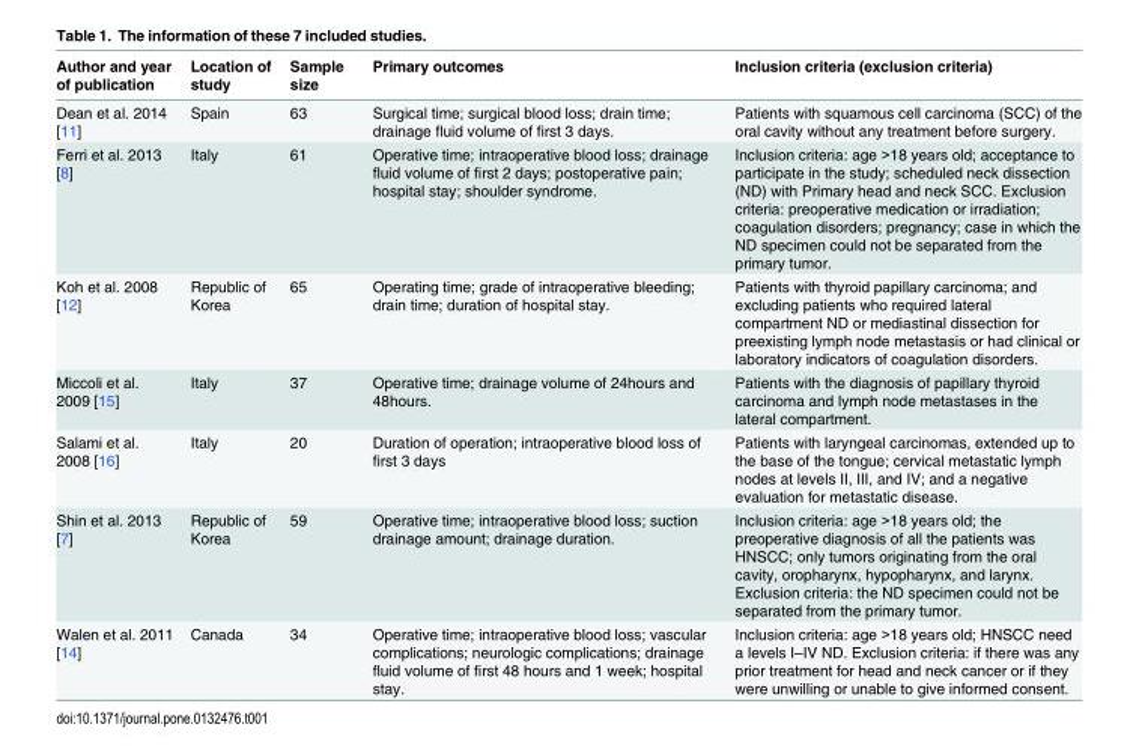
<table><thead><tr><td>Author and year of publication</td><td>Location of study</td><td>Sample size</td><td>Primary outcomes</td><td>Inclusion criteria (exclusion criteria)</td></tr></thead><tbody><tr><td>Dean et al. 2014 [11]</td><td>Spain</td><td>63</td><td>Surgical time; surgical blood loss; drain time; drainage fluid volume of first 3 days.</td><td>Patients with squamous cell carcinoma (SCC) of the oral cavity without any treatment before surgery.</td></tr><tr><td>Ferri et al. 2013 [8]</td><td>Italy</td><td>61</td><td>Operative time; intraoperative blood loss; drainage fluid volume of first 2 days; postoperative pain; hospital stay; shoulder syndrome.</td><td>Inclusion criteria: age &gt;18 years old; acceptance to participate in the study; scheduled neck dissection (ND) with Primary head and neck SCC. Exclusion criteria: preoperative medication or irradiation; coagulation disorders; pregnancy; case in which the ND specimen could not be separated from the primary tumor.</td></tr><tr><td>Koh et al. 2008 [12]</td><td>Republic of Korea</td><td>65</td><td>Operating time; grade of intraoperative bleeding; drain time; duration of hospital stay.</td><td>Patients with thyroid papillary carcinoma; and excluding patients who required lateral compartment ND or mediastinal dissection for preexisting lymph node metastasis or had clinical or laboratory indicators of coagulation disorders.</td></tr><tr><td>Miccoli et al. 2009 [15]</td><td>Italy</td><td>37</td><td>Operative time; drainage volume of 24hours and 48hours.</td><td>Patients with the diagnosis of papillary thyroid carcinoma and lymph node metastases in the lateral compartment.</td></tr><tr><td>Salami et al. 2008 [16]</td><td>Italy</td><td>20</td><td>Duration of operation; intraoperative blood loss of first 3 days</td><td>Patients with laryngeal carcinomas, extended up to the base of the tongue; cervical metastatic lymph nodes at levels II, III, and IV; and a negative evaluation for metastatic disease.</td></tr><tr><td>Shin et al. 2013 [7]</td><td>Republic of Korea</td><td>59</td><td>Operative time; intraoperative blood loss; suction drainage amount; drainage duration.</td><td>Inclusion criteria: age &gt;18 years old; the preoperative diagnosis of all the patients was HNSCC; only tumors originating from the oral cavity, oropharynx, hypopharynx, and larynx. Exclusion criteria: the ND specimen could not be separated from the primary tumor.</td></tr><tr><td>Walen et al. 2011 [14]</td><td>Canada</td><td>34</td><td>Operative time; intraoperative blood loss; vascular complications; neurologic complications; drainage fluid volume of first 48 hours and 1 week; hospital stay.</td><td>Inclusion criteria: age &gt;18 years old; HNSCC need a levels I–IV ND. Exclusion criteria: if there was any prior treatment for head and neck cancer or if they were unwilling or unable to give informed consent.</td></tr></tbody></table>